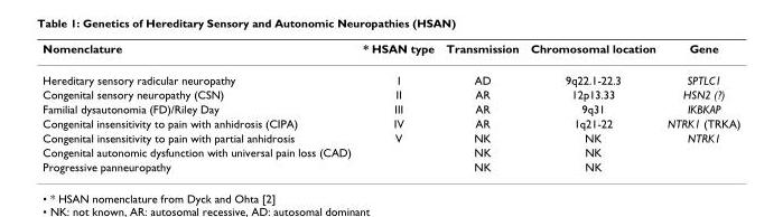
<table><thead><tr><td>Nomenclature</td><td>* HSAN type</td><td>Transmission</td><td>Chromosomal location</td><td>Gene</td></tr></thead><tbody><tr><td>Hereditary sensory radicular neuropathy</td><td>I</td><td>AD</td><td>9q22.1-22.3</td><td>SPTLC1</td></tr><tr><td>Congenital sensory neuropathy (CSN)</td><td>II</td><td>AR</td><td>12p13.33</td><td>HSN2 (?)</td></tr><tr><td>Familial dysautonomia (FD)/Riley Day</td><td>III</td><td>AR</td><td>9q31</td><td>IKBKAP</td></tr><tr><td>Congenital insensitivity to pain with anhidrosis (CIPA)</td><td>IV</td><td>AR</td><td>1q21-22</td><td>NTRK1 (TRKA)</td></tr><tr><td>Congenital insensitivity to pain with partial anhidrosis</td><td>V</td><td>NK</td><td>NK</td><td>NTRK1</td></tr><tr><td>Congenital autonomic dysfunction with universal pain loss (CAD)</td><td></td><td>NK</td><td>NK</td><td></td></tr><tr><td>Progressive panneuropathy</td><td></td><td>NK</td><td>NK</td><td></td></tr></tbody></table>